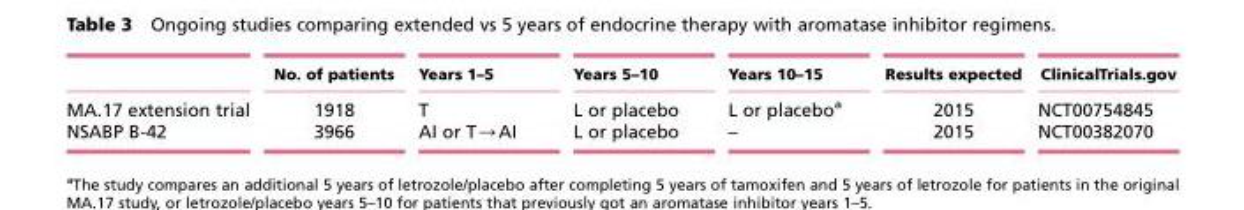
<table><thead><tr><td></td><td>No. of patients</td><td>Years 1–5</td><td>Years 5–10</td><td>Years 10–15</td><td>Results expected</td><td>ClinicalTrials.gov</td></tr></thead><tbody><tr><td>MA.17 extension trial</td><td>1918</td><td>T</td><td>L or placebo</td><td>L or placebo<sup>a</sup></td><td>2015</td><td>NCT00754845</td></tr><tr><td>NSABP B-42</td><td>3966</td><td>AI or T→AI</td><td>L or placebo</td><td>–</td><td>2015</td><td>NCT00382070</td></tr></tbody></table>